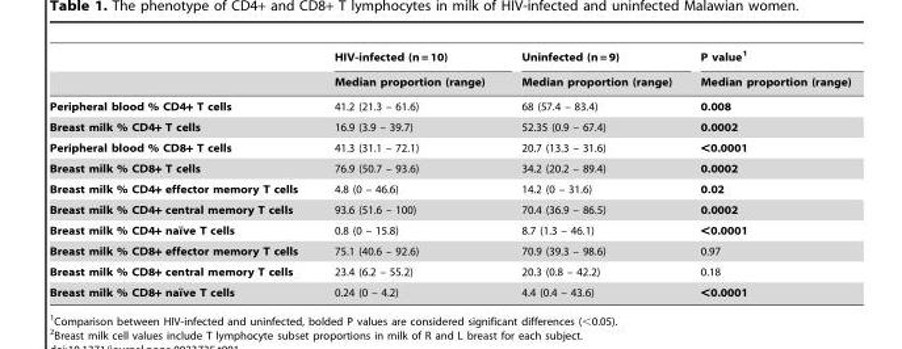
<table><thead><tr><td rowspan="2"></td><td rowspan="2">HIV-infected (n = 10) Median proportion (range)</td><td rowspan="2">Uninfected (n = 9) Median proportion (range)</td><td rowspan="2">P value<sup>1</sup> Median proportion (range)</td></tr><tr></tr></thead><tbody><tr><td>Peripheral blood % CD4+ T cells</td><td>41.2 (21.3 – 61.6)</td><td>68 (57.4 – 83.4)</td><td>0.008</td></tr><tr><td>Breast milk % CD4+ T cells</td><td>16.9 (3.9 – 39.7)</td><td>52.35 (0.9 – 67.4)</td><td>0.0002</td></tr><tr><td>Peripheral blood % CD8+ T cells</td><td>41.3 (31.1 – 72.1)</td><td>20.7 (13.3 – 31.6)</td><td>&lt;0.0001</td></tr><tr><td>Breast milk % CD8+ T cells</td><td>76.9 (50.7 – 93.6)</td><td>34.2 (20.2 – 89.4)</td><td>0.0002</td></tr><tr><td>Breast milk % CD4+ effector memory T cells</td><td>4.8 (0 – 46.6)</td><td>14.2 (0 – 31.6)</td><td>0.02</td></tr><tr><td>Breast milk % CD4+ central memory T cells</td><td>93.6 (51.6 – 100)</td><td>70.4 (36.9 – 86.5)</td><td>0.0002</td></tr><tr><td>Breast milk % CD4+ naı¨ve T cells</td><td>0.8 (0 – 15.8)</td><td>8.7 (1.3 – 46.1)</td><td>&lt;0.0001</td></tr><tr><td>Breast milk % CD8+ effector memory T cells</td><td>75.1 (40.6 – 92.6)</td><td>70.9 (39.3 – 98.6)</td><td>0.97</td></tr><tr><td>Breast milk % CD8+ central memory T cells</td><td>23.4 (6.2 – 55.2)</td><td>20.3 (0.8 – 42.2)</td><td>0.18</td></tr><tr><td>Breast milk % CD8+ naı¨ve T cells</td><td>0.24 (0 – 4.2)</td><td>4.4 (0.4 – 43.6)</td><td>&lt;0.0001</td></tr></tbody></table>